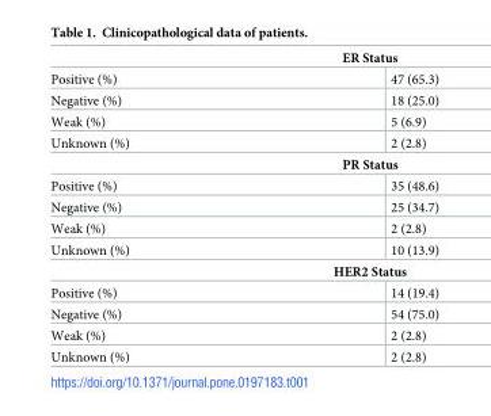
<table><tbody><tr><td colspan="2">ER Status</td></tr><tr><td>Positive (%)</td><td>47 (65.3)</td></tr><tr><td>Negative (%)</td><td>18 (25.0)</td></tr><tr><td>Weak (%)</td><td>5 (6.9)</td></tr><tr><td>Unknown (%)</td><td>2 (2.8)</td></tr><tr><td colspan="2">PR Status</td></tr><tr><td>Positive (%)</td><td>35 (48.6)</td></tr><tr><td>Negative (%)</td><td>25 (34.7)</td></tr><tr><td>Weak (%)</td><td>2 (2.8)</td></tr><tr><td>Unknown (%)</td><td>10 (13.9)</td></tr><tr><td colspan="2">HER2 Status</td></tr><tr><td>Positive (%)</td><td>14 (19.4)</td></tr><tr><td>Negative (%)</td><td>54 (75.0)</td></tr><tr><td>Weak (%)</td><td>2 (2.8)</td></tr><tr><td>Unknown (%)</td><td>2 (2.8)</td></tr></tbody></table>